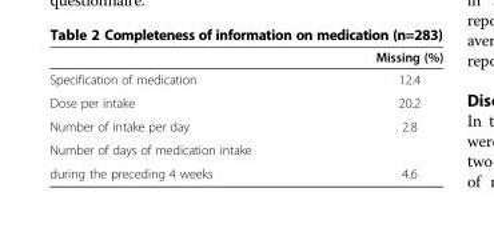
<table><thead><tr><td></td><td>Missing (%)</td></tr></thead><tbody><tr><td>Specification of medication</td><td>12.4</td></tr><tr><td>Dose per intake</td><td>20.2</td></tr><tr><td>Number of intake per day</td><td>2.8</td></tr><tr><td colspan="2">Number of days of medication intake</td></tr><tr><td>during the preceding 4 weeks</td><td>4.6</td></tr></tbody></table>